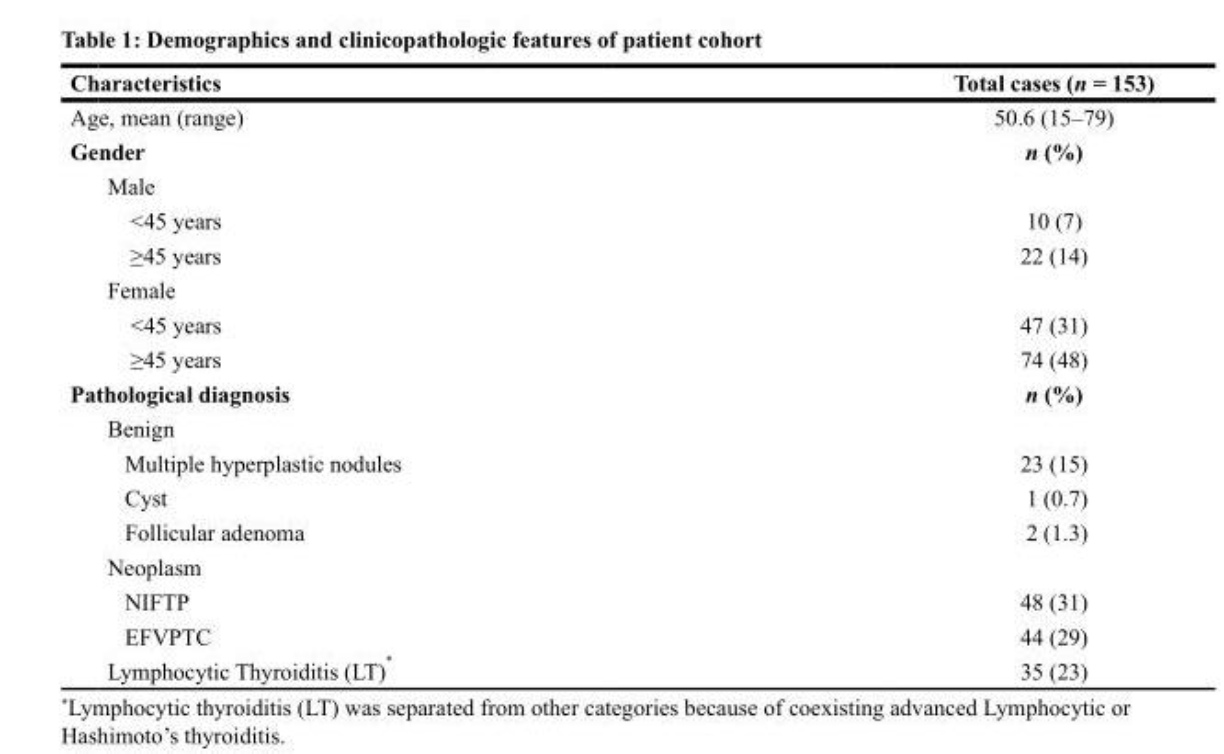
<table><thead><tr><td>Characteristics</td><td>Total cases (n = 153)</td></tr></thead><tbody><tr><td>Age, mean (range)</td><td>50.6 (15–79)</td></tr><tr><td>Gender</td><td>n (%)</td></tr><tr><td colspan="2">Male</td></tr><tr><td>&lt;45 years</td><td>10 (7)</td></tr><tr><td>≥45 years</td><td>22 (14)</td></tr><tr><td colspan="2">Female</td></tr><tr><td>&lt;45 years</td><td>47 (31)</td></tr><tr><td>≥45 years</td><td>74 (48)</td></tr><tr><td>Pathological diagnosis</td><td>n (%)</td></tr><tr><td colspan="2">Benign</td></tr><tr><td>Multiple hyperplastic nodules</td><td>23 (15)</td></tr><tr><td>Cyst</td><td>1 (0.7)</td></tr><tr><td>Follicular adenoma</td><td>2 (1.3)</td></tr><tr><td colspan="2">Neoplasm</td></tr><tr><td>NIFTP</td><td>48 (31)</td></tr><tr><td>EFVPTC</td><td>44 (29)</td></tr><tr><td>Lymphocytic Thyroiditis (LT) *</td><td>35 (23)</td></tr></tbody></table>